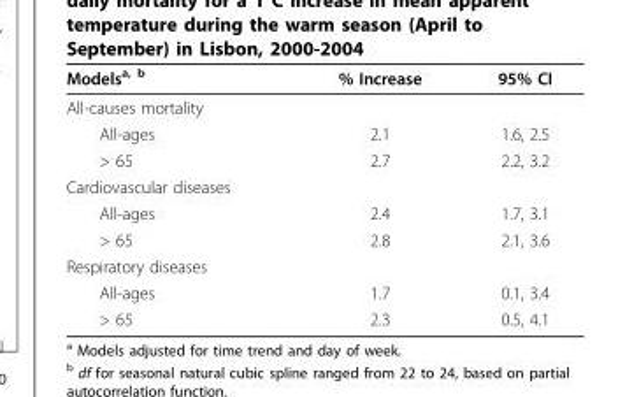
<table><thead><tr><td>Models<sup>a, b</sup></td><td>% Increase</td><td>95% CI</td></tr></thead><tbody><tr><td colspan="3">All-causes mortality</td></tr><tr><td>All-ages</td><td>2.1</td><td>1.6, 2.5</td></tr><tr><td>&gt; 65</td><td>2.7</td><td>2.2, 3.2</td></tr><tr><td colspan="3">Cardiovascular diseases</td></tr><tr><td>All-ages</td><td>2.4</td><td>1.7, 3.1</td></tr><tr><td>&gt; 65</td><td>2.8</td><td>2.1, 3.6</td></tr><tr><td colspan="3">Respiratory diseases</td></tr><tr><td>All-ages</td><td>1.7</td><td>0.1, 3.4</td></tr><tr><td>&gt; 65</td><td>2.3</td><td>0.5, 4.1</td></tr></tbody></table>